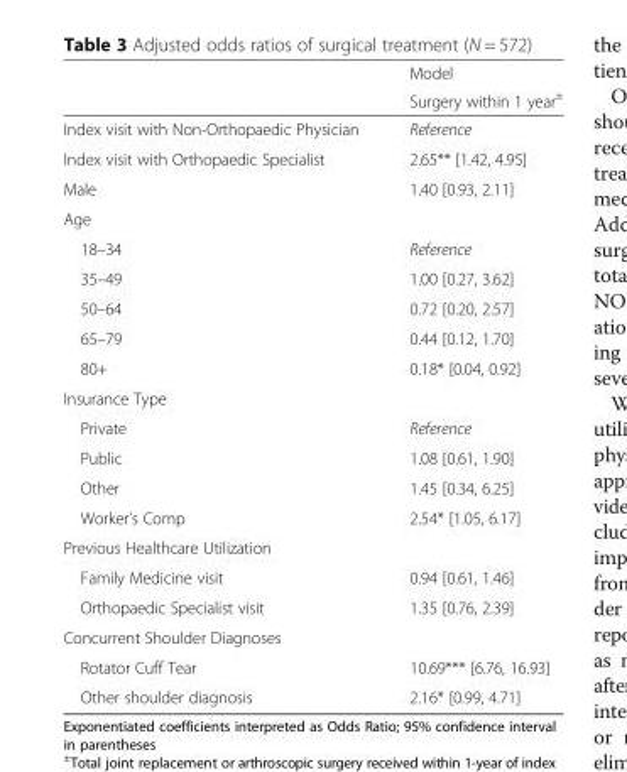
<table><thead><tr><td rowspan="2"></td><td rowspan="2">Model Surgery within 1 year<sup>±</sup></td></tr><tr></tr></thead><tbody><tr><td>Index visit with Non-Orthopaedic Physician</td><td>Reference</td></tr><tr><td>Index visit with Orthopaedic Specialist</td><td>2.65** [1.42, 4.95]</td></tr><tr><td>Male</td><td>1.40 [0.93, 2.11]</td></tr><tr><td colspan="2">Age</td></tr><tr><td>18–34</td><td>Reference</td></tr><tr><td>35–49</td><td>1.00 [0.27, 3.62]</td></tr><tr><td>50–64</td><td>0.72 [0.20, 2.57]</td></tr><tr><td>65–79</td><td>0.44 [0.12, 1.70]</td></tr><tr><td>80+</td><td>0.18* [0.04, 0.92]</td></tr><tr><td colspan="2">Insurance Type</td></tr><tr><td>Private</td><td>Reference</td></tr><tr><td>Public</td><td>1.08 [0.61, 1.90]</td></tr><tr><td>Other</td><td>1.45 [0.34, 6.25]</td></tr><tr><td>Worker’s Comp</td><td>2.54* [1.05, 6.17]</td></tr><tr><td colspan="2">Previous Healthcare Utilization</td></tr><tr><td>Family Medicine visit</td><td>0.94 [0.61, 1.46]</td></tr><tr><td>Orthopaedic Specialist visit</td><td>1.35 [0.76, 2.39]</td></tr><tr><td colspan="2">Concurrent Shoulder Diagnoses</td></tr><tr><td>Rotator Cuff Tear</td><td>10.69*** [6.76, 16.93]</td></tr><tr><td>Other shoulder diagnosis</td><td>2.16* [0.99, 4.71]</td></tr></tbody></table>